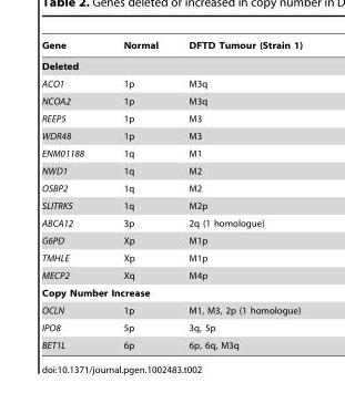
<table><thead><tr><td>Gene</td><td>Normal</td><td>DFTD Tumour (Strain 1)</td></tr></thead><tbody><tr><td colspan="3">Deleted</td></tr><tr><td>ACO1</td><td>1p</td><td>M3q</td></tr><tr><td>NCOA2</td><td>1p</td><td>M3q</td></tr><tr><td>REEP5</td><td>1p</td><td>M3</td></tr><tr><td>WDR48</td><td>1p</td><td>M3</td></tr><tr><td>ENM01188</td><td>1q</td><td>M1</td></tr><tr><td>NWD1</td><td>1q</td><td>M2</td></tr><tr><td>OSBP2</td><td>1q</td><td>M2</td></tr><tr><td>SLITRK5</td><td>1q</td><td>M2p</td></tr><tr><td>ABCA12</td><td>3p</td><td>2q (1 homologue)</td></tr><tr><td>G6PD</td><td>Xp</td><td>M1p</td></tr><tr><td>TMHLE</td><td>Xp</td><td>M1p</td></tr><tr><td>MECP2</td><td>Xq</td><td>M4p</td></tr><tr><td colspan="3">Copy Number Increase</td></tr><tr><td>OCLN</td><td>1p</td><td>M1, M3, 2p (1 homologue)</td></tr><tr><td>IPO8</td><td>5p</td><td>3q, 5p</td></tr><tr><td>BET1L</td><td>6p</td><td>6p, 6q, M3q</td></tr></tbody></table>